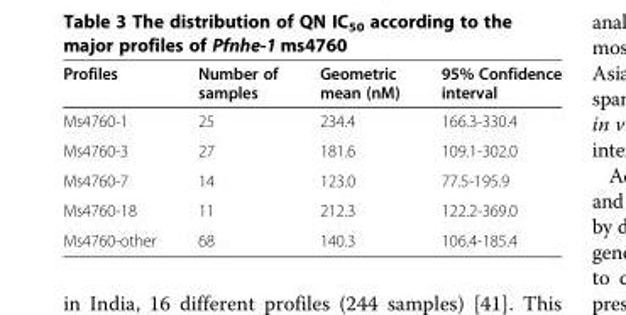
<table><thead><tr><td>Profiles</td><td>Number of samples</td><td>Geometric mean (nM)</td><td>95% Confidence interval</td></tr></thead><tbody><tr><td>Ms4760-1</td><td>25</td><td>234.4</td><td>166.3-330.4</td></tr><tr><td>Ms4760-3</td><td>27</td><td>181.6</td><td>109.1-302.0</td></tr><tr><td>Ms4760-7</td><td>14</td><td>123.0</td><td>77.5-195.9</td></tr><tr><td>Ms4760-18</td><td>11</td><td>212.3</td><td>122.2-369.0</td></tr><tr><td>Ms4760-other</td><td>68</td><td>140.3</td><td>106.4-185.4</td></tr></tbody></table>